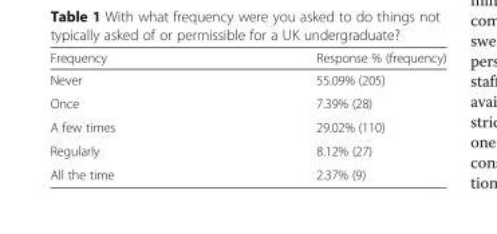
<table><thead><tr><td>Frequency</td><td>Response % (frequency)</td></tr></thead><tbody><tr><td>Never</td><td>55.09% (205)</td></tr><tr><td>Once</td><td>7.39% (28)</td></tr><tr><td>A few times</td><td>29.02% (110)</td></tr><tr><td>Regularly</td><td>8.12% (27)</td></tr><tr><td>All the time</td><td>2.37% (9)</td></tr></tbody></table>